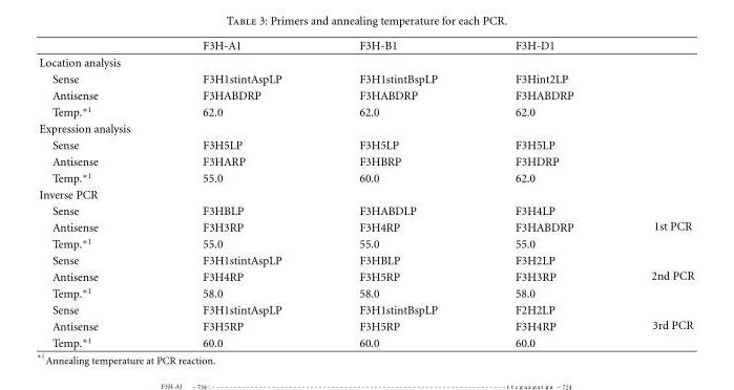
<table><thead><tr><td></td><td>F3H-A1</td><td>F3H-B1</td><td>F3H-D1</td><td></td></tr></thead><tbody><tr><td colspan="5">Location analysis</td></tr><tr><td>Sense</td><td>F3H1stintAspLP</td><td>F3H1stintBspLP</td><td>F3Hint2LP</td><td></td></tr><tr><td>Antisense</td><td>F3HABDRP</td><td>F3HABDRP</td><td>F3HABDRP</td><td></td></tr><tr><td>Temp.<sup>∗1</sup></td><td>62.0</td><td>62.0</td><td>62.0</td><td></td></tr><tr><td colspan="5">Expression analysis</td></tr><tr><td>Sense</td><td>F3H5LP</td><td>F3H5LP</td><td>F3H5LP</td><td></td></tr><tr><td>Antisense</td><td>F3HARP</td><td>F3HBRP</td><td>F3HDRP</td><td></td></tr><tr><td>Temp.<sup>∗1</sup></td><td>55.0</td><td>60.0</td><td>62.0</td><td></td></tr><tr><td colspan="5">Inverse PCR</td></tr><tr><td>Sense</td><td>F3HBLP</td><td>F3HABDLP</td><td>F3H4LP</td><td rowspan="3">1st PCR</td></tr><tr><td>Antisense</td><td>F3H3RP</td><td>F3H4RP</td><td>F3HABDRP</td></tr><tr><td>Temp.<sup>∗1</sup></td><td>55.0</td><td>55.0</td><td>55.0</td></tr><tr><td>Sense</td><td>F3H1stintAspLP</td><td>F3HBLP</td><td>F3H2LP</td><td rowspan="3">2nd PCR</td></tr><tr><td>Antisense</td><td>F3H4RP</td><td>F3H5RP</td><td>F3H3RP</td></tr><tr><td>Temp.<sup>∗1</sup></td><td>58.0</td><td>58.0</td><td>58.0</td></tr><tr><td>Sense</td><td>F3H1stintAspLP</td><td>F3H1stintBspLP</td><td>F2H2LP</td><td rowspan="3">3rd PCR</td></tr><tr><td>Antisense</td><td>F3H5RP</td><td>F3H5RP</td><td>F3H4RP</td></tr><tr><td>Temp.<sup>∗1</sup></td><td>60.0</td><td>60.0</td><td>60.0</td></tr></tbody></table>